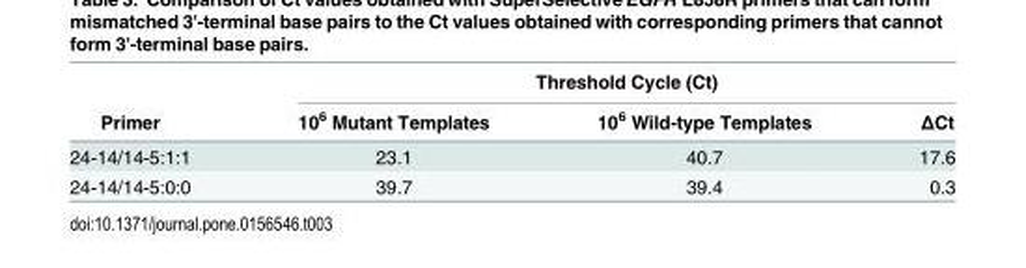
<table><thead><tr><td rowspan="2">Primer</td><td colspan="3">Threshold Cycle (Ct)</td></tr><tr><td>10<sup>6</sup> Mutant Templates</td><td>10<sup>6</sup> Wild-type Templates</td><td>ΔCt</td></tr></thead><tbody><tr><td>24-14/14-5:1:1</td><td>23.1</td><td>40.7</td><td>17.6</td></tr><tr><td>24-14/14-5:0:0</td><td>39.7</td><td>39.4</td><td>0.3</td></tr></tbody></table>